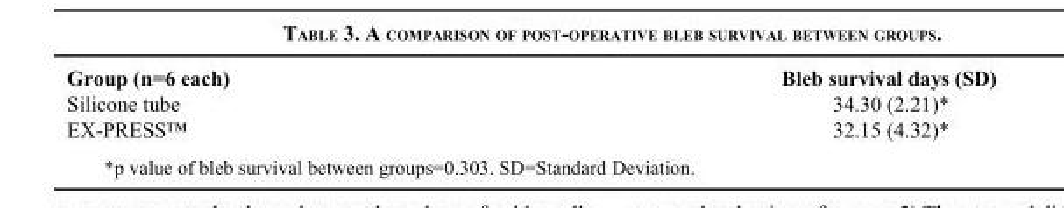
<table><thead><tr><td>Group (n=6 each)</td><td>Bleb survival days (SD)</td></tr></thead><tbody><tr><td>Silicone tube</td><td>34.30 (2.21)*</td></tr><tr><td>EX-PRESS™</td><td>32.15 (4.32)*</td></tr></tbody></table>